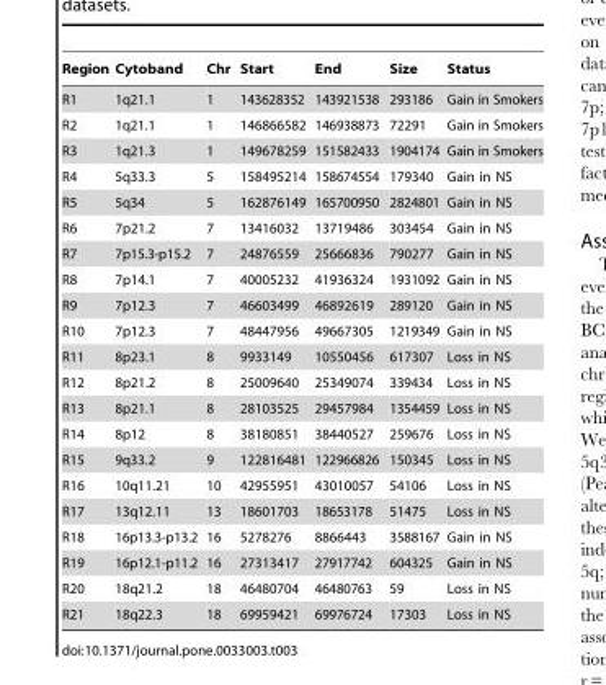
<table><thead><tr><td>Region</td><td>Cytoband</td><td>Chr</td><td>Start</td><td>End</td><td>Size</td><td>Status</td></tr></thead><tbody><tr><td>R1</td><td>1q21.1</td><td>1</td><td>143628352</td><td>143921538</td><td>293186</td><td>Gain in Smokers</td></tr><tr><td>R2</td><td>1q21.1</td><td>1</td><td>146866582</td><td>146938873</td><td>72291</td><td>Gain in Smokers</td></tr><tr><td>R3</td><td>1q21.3</td><td>1</td><td>149678259</td><td>151582433</td><td>1904174</td><td>Gain in Smokers</td></tr><tr><td>R4</td><td>5q33.3</td><td>5</td><td>158495214</td><td>158674554</td><td>179340</td><td>Gain in NS</td></tr><tr><td>R5</td><td>5q34</td><td>5</td><td>162876149</td><td>165700950</td><td>2824801</td><td>Gain in NS</td></tr><tr><td>R6</td><td>7p21.2</td><td>7</td><td>13416032</td><td>13719486</td><td>303454</td><td>Gain in NS</td></tr><tr><td>R7</td><td>7p15.3-p15.2</td><td>7</td><td>24876559</td><td>25666836</td><td>790277</td><td>Gain in NS</td></tr><tr><td>R8</td><td>7p14.1</td><td>7</td><td>40005232</td><td>41936324</td><td>1931092</td><td>Gain in NS</td></tr><tr><td>R9</td><td>7p12.3</td><td>7</td><td>46603499</td><td>46892619</td><td>289120</td><td>Gain in NS</td></tr><tr><td>R10</td><td>7p12.3</td><td>7</td><td>48447956</td><td>49667305</td><td>1219349</td><td>Gain in NS</td></tr><tr><td>R11</td><td>8p23.1</td><td>8</td><td>9933149</td><td>10550456</td><td>617307</td><td>Loss in NS</td></tr><tr><td>R12</td><td>8p21.2</td><td>8</td><td>25009640</td><td>25349074</td><td>339434</td><td>Loss in NS</td></tr><tr><td>R13</td><td>8p21.1</td><td>8</td><td>28103525</td><td>29457984</td><td>1354459</td><td>Loss in NS</td></tr><tr><td>R14</td><td>8p12</td><td>8</td><td>38180851</td><td>38440527</td><td>259676</td><td>Loss in NS</td></tr><tr><td>R15</td><td>9q33.2</td><td>9</td><td>122816481</td><td>122966826</td><td>150345</td><td>Loss in NS</td></tr><tr><td>R16</td><td>10q11.21</td><td>10</td><td>42955951</td><td>43010057</td><td>54106</td><td>Loss in NS</td></tr><tr><td>R17</td><td>13q12.11</td><td>13</td><td>18601703</td><td>18653178</td><td>51475</td><td>Loss in NS</td></tr><tr><td>R18</td><td>16p13.3-p13.2</td><td>16</td><td>5278276</td><td>8866443</td><td>3588167</td><td>Gain in NS</td></tr><tr><td>R19</td><td>16p12.1-p11.2</td><td>16</td><td>27313417</td><td>27917742</td><td>604325</td><td>Gain in NS</td></tr><tr><td>R20</td><td>18q21.2</td><td>18</td><td>46480704</td><td>46480763</td><td>59</td><td>Loss in NS</td></tr><tr><td>R21</td><td>18q22.3</td><td>18</td><td>69959421</td><td>69976724</td><td>17303</td><td>Loss in NS</td></tr></tbody></table>